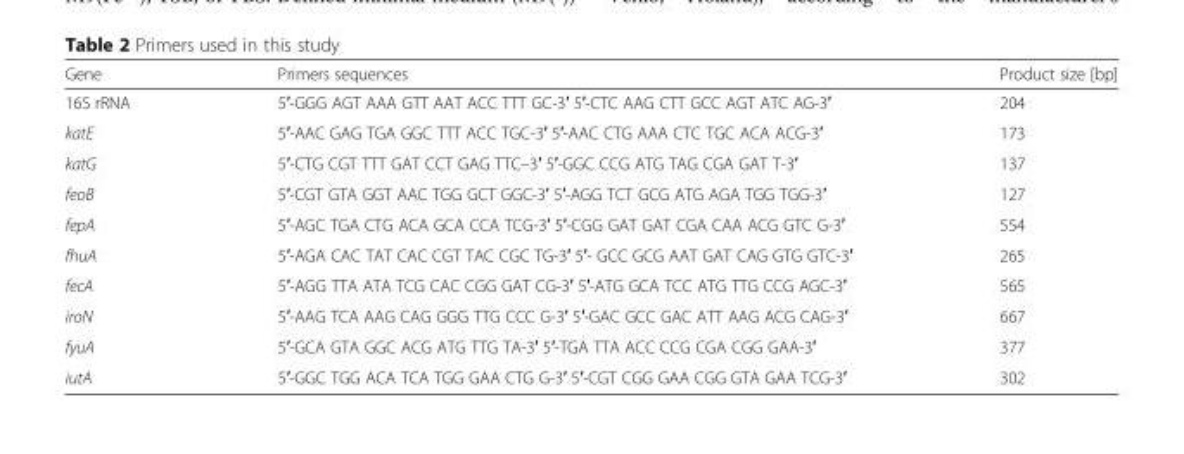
<table><thead><tr><td>Gene</td><td>Primers sequences</td><td>Product size [bp]</td></tr></thead><tbody><tr><td>16S rRNA</td><td>5′-GGG AGT AAA GTT AAT ACC TTT GC-3′ 5′-CTC AAG CTT GCC AGT ATC AG-3′</td><td>204</td></tr><tr><td>katE</td><td>5′-AAC GAG TGA GGC TTT ACC TGC-3′ 5′-AAC CTG AAA CTC TGC ACA ACG-3′</td><td>173</td></tr><tr><td>katG</td><td>5′-CTG CGT TTT GAT CCT GAG TTC–3′ 5′-GGC CCG ATG TAG CGA GAT T-3′</td><td>137</td></tr><tr><td>feoB</td><td>5′-CGT GTA GGT AAC TGG GCT GGC-3′ 5′-AGG TCT GCG ATG AGA TGG TGG-3′</td><td>127</td></tr><tr><td>fepA</td><td>5′-AGC TGA CTG ACA GCA CCA TCG-3′ 5′-CGG GAT GAT CGA CAA ACG GTC G-3′</td><td>554</td></tr><tr><td>fhuA</td><td>5′-AGA CAC TAT CAC CGT TAC CGC TG-3′ 5′- GCC GCG AAT GAT CAG GTG GTC-3′</td><td>265</td></tr><tr><td>fecA</td><td>5′-AGG TTA ATA TCG CAC CGG GAT CG-3′ 5′-ATG GCA TCC ATG TTG CCG AGC-3′</td><td>565</td></tr><tr><td>iroN</td><td>5′-AAG TCA AAG CAG GGG TTG CCC G-3′ 5′-GAC GCC GAC ATT AAG ACG CAG-3′</td><td>667</td></tr><tr><td>fyuA</td><td>5′-GCA GTA GGC ACG ATG TTG TA-3′ 5′-TGA TTA ACC CCG CGA CGG GAA-3′</td><td>377</td></tr><tr><td>iutA</td><td>5′-GGC TGG ACA TCA TGG GAA CTG G-3′ 5′-CGT CGG GAA CGG GTA GAA TCG-3′</td><td>302</td></tr></tbody></table>